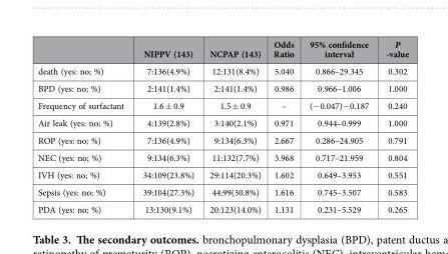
<table><thead><tr><td></td><td>NIPPV (143)</td><td>NCPAP (143)</td><td>Odds Ratio</td><td>95% confidence interval</td><td>P -value</td></tr></thead><tbody><tr><td>death (yes: no; %)</td><td>7:136(4.9%)</td><td>12:131(8.4%)</td><td>5.040</td><td>0.866–29.345</td><td>0.302</td></tr><tr><td>BPD (yes: no; %)</td><td>2:141(1.4%)</td><td>2:141(1.4%)</td><td>0.986</td><td>0.966–1.006</td><td>1.000</td></tr><tr><td>Frequency of surfactant</td><td>1.6 ± 0.9</td><td>1.5 ± 0.9</td><td>–</td><td>(− 0.047)− 0.187</td><td>0.240</td></tr><tr><td>Air leak (yes: no; %)</td><td>4:139(2.8%)</td><td>3:140(2.1%)</td><td>0.971</td><td>0.944–0.999</td><td>1.000</td></tr><tr><td>ROP (yes: no; %)</td><td>7:136(4.9%)</td><td>9:134(6.3%)</td><td>2.667</td><td>0.286–24.905</td><td>0.791</td></tr><tr><td>NEC (yes: no; %)</td><td>9:134(6.3%)</td><td>11:132(7.7%)</td><td>3.968</td><td>0.717–21.959</td><td>0.804</td></tr><tr><td>IVH (yes: no; %)</td><td>34:109(23.8%)</td><td>29:114(20.3%)</td><td>1.602</td><td>0.649–3.953</td><td>0.551</td></tr><tr><td>Sepsis (yes: no; %)</td><td>39:104(27.3%)</td><td>44:99(30.8%)</td><td>1.616</td><td>0.745–3.507</td><td>0.583</td></tr><tr><td>PDA (yes: no; %)</td><td>13:130(9.1%)</td><td>20:123(14.0%)</td><td>1.131</td><td>0.231–5.529</td><td>0.265</td></tr></tbody></table>